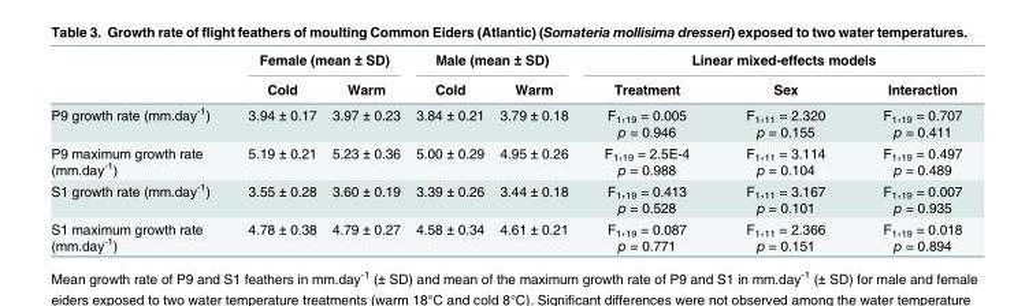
<table><thead><tr><td rowspan="2"></td><td colspan="2">Female (mean ± SD)</td><td colspan="2">Male (mean ± SD)</td><td colspan="3">Linear mixed-effects models</td></tr><tr><td>Cold</td><td>Warm</td><td>Cold</td><td>Warm</td><td>Treatment</td><td>Sex</td><td>Interaction</td></tr></thead><tbody><tr><td>P9 growth rate (mm.day<sup>-1</sup>)</td><td>3.94 ± 0.17</td><td>3.97 ± 0.23</td><td>3.84 ± 0.21</td><td>3.79 ± 0.18</td><td>F<sub>1</sub>,<sub>19</sub> = 0.005 p = 0.946</td><td>F<sub>1</sub>,<sub>11</sub> = 2.320 p = 0.155</td><td>F<sub>1</sub>,<sub>19</sub> = 0.707 p = 0.411</td></tr><tr><td>P9 maximum growth rate (mm.day<sup>-1</sup>)</td><td>5.19 ± 0.21</td><td>5.23 ± 0.36</td><td>5.00 ± 0.29</td><td>4.95 ± 0.26</td><td>F<sub>1</sub>,<sub>19</sub> = 2.5E-4 p = 0.988</td><td>F<sub>1</sub>,<sub>11</sub> = 3.114 p = 0.104</td><td>F<sub>1</sub>,<sub>19</sub> = 0.497 p = 0.489</td></tr><tr><td>S1 growth rate (mm.day<sup>-1</sup>)</td><td>3.55 ± 0.28</td><td>3.60 ± 0.19</td><td>3.39 ± 0.26</td><td>3.44 ± 0.18</td><td>F<sub>1</sub>,<sub>19</sub> = 0.413 p = 0.528</td><td>F<sub>1</sub>,<sub>11</sub> = 3.167 p = 0.101</td><td>F<sub>1</sub>,<sub>19</sub> = 0.007 p = 0.935</td></tr><tr><td>S1 maximum growth rate (mm.day<sup>-1</sup>)</td><td>4.78 ± 0.38</td><td>4.79 ± 0.27</td><td>4.58 ± 0.34</td><td>4.61 ± 0.21</td><td>F<sub>1</sub>,<sub>19</sub> = 0.087 p = 0.771</td><td>F<sub>1</sub>,<sub>11</sub> = 2.366 p = 0.151</td><td>F<sub>1</sub>,<sub>19</sub> = 0.018 p = 0.894</td></tr></tbody></table>